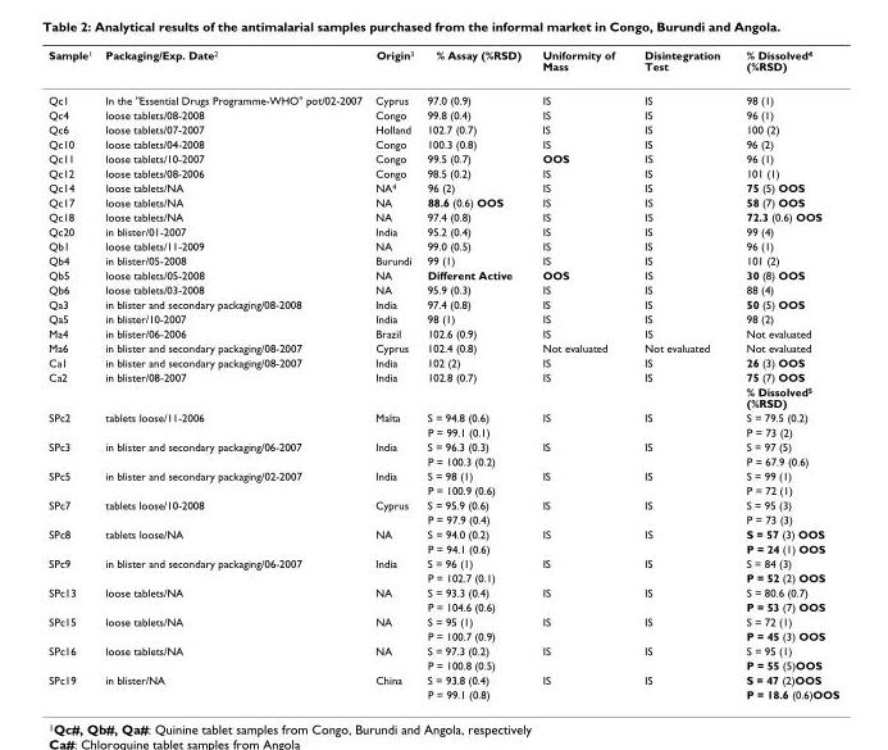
<table><thead><tr><td>Sample<sup>1</sup></td><td>Packaging/Exp. Date<sup>2</sup></td><td>Origin<sup>3</sup></td><td>% Assay (%RSD)</td><td>Uniformity of Mass</td><td>Disintegration Test</td><td>% Dissolved<sup>4</sup> (%RSD)</td></tr></thead><tbody><tr><td>Qc1</td><td>In the &quot;Essential Drugs Programme-WHO&quot; pot/02-2007</td><td>Cyprus</td><td>97.0 (0.9)</td><td>IS</td><td>IS</td><td>98 (1)</td></tr><tr><td>Qc4</td><td>loose tablets/08-2008</td><td>Congo</td><td>99.8 (0.4)</td><td>IS</td><td>IS</td><td>96 (1)</td></tr><tr><td>Qc6</td><td>loose tablets/07-2007</td><td>Holland</td><td>102.7 (0.7)</td><td>IS</td><td>IS</td><td>100 (2)</td></tr><tr><td>Qc10</td><td>loose tablets/04-2008</td><td>Congo</td><td>100.3 (0.8)</td><td>IS</td><td>IS</td><td>96 (2)</td></tr><tr><td>Qc11</td><td>loose tablets/10-2007</td><td>Congo</td><td>99.5 (0.7)</td><td>OOS</td><td>IS</td><td>96 (1)</td></tr><tr><td>Qc12</td><td>loose tablets/08-2006</td><td>Congo</td><td>98.5 (0.2)</td><td>IS</td><td>IS</td><td>101 (1)</td></tr><tr><td>Qc14</td><td>loose tablets/NA</td><td>NA<sup>4</sup></td><td>96 (2)</td><td>IS</td><td>IS</td><td>75 (5) OOS</td></tr><tr><td>Qc17</td><td>loose tablets/NA</td><td>NA</td><td>88.6 (0.6) OOS</td><td>IS</td><td>IS</td><td>58 (7) OOS</td></tr><tr><td>Qc18</td><td>loose tablets/NA</td><td>NA</td><td>97.4 (0.8)</td><td>IS</td><td>IS</td><td>72.3 (0.6) OOS</td></tr><tr><td>Qc20</td><td>in blister/01-2007</td><td>India</td><td>95.2 (0.4)</td><td>IS</td><td>IS</td><td>99 (4)</td></tr><tr><td>Qb1</td><td>loose tablets/11-2009</td><td>NA</td><td>99.0 (0.5)</td><td>IS</td><td>IS</td><td>96 (1)</td></tr><tr><td>Qb4</td><td>in blister/05-2008</td><td>Burundi</td><td>99 (1)</td><td>IS</td><td>IS</td><td>101 (2)</td></tr><tr><td>Qb5</td><td>loose tablets/05-2008</td><td>NA</td><td>Different Active</td><td>OOS</td><td>IS</td><td>30 (8) OOS</td></tr><tr><td>Qb6</td><td>loose tablets/03-2008</td><td>NA</td><td>95.9 (0.3)</td><td>IS</td><td>IS</td><td>88 (4)</td></tr><tr><td>Qa3</td><td>in blister and secondary packaging/08-2008</td><td>India</td><td>97.4 (0.8)</td><td>IS</td><td>IS</td><td>50 (5) OOS</td></tr><tr><td>Qa5</td><td>in blister/10-2007</td><td>India</td><td>98 (1)</td><td>IS</td><td>IS</td><td>98 (2)</td></tr><tr><td>Ma4</td><td>in blister/06-2006</td><td>Brazil</td><td>102.6 (0.9)</td><td>IS</td><td>IS</td><td>Not evaluated</td></tr><tr><td>Ma6</td><td>in blister and secondary packaging/08-2007</td><td>Cyprus</td><td>102.4 (0.8)</td><td>Not evaluated</td><td>Not evaluated</td><td>Not evaluated</td></tr><tr><td>Ca1</td><td>in blister and secondary packaging/08-2007</td><td>India</td><td>102 (2)</td><td>IS</td><td>IS</td><td>26 (3) OOS</td></tr><tr><td rowspan="2">Ca2</td><td>in blister/08-2007</td><td>India</td><td>102.8 (0.7)</td><td>IS</td><td>IS</td><td>75 (7) OOS</td></tr><tr><td></td><td></td><td></td><td></td><td></td><td>% Dissolved<sup>5</sup> (%RSD)</td></tr><tr><td rowspan="2">SPc2</td><td>tablets loose/11-2006</td><td>Malta</td><td>S = 94.8 (0.6)</td><td>IS</td><td>IS</td><td>S = 79.5 (0.2)</td></tr><tr><td></td><td></td><td>P = 99.1 (0.1)</td><td></td><td></td><td>P = 73 (2)</td></tr><tr><td rowspan="2">SPc3</td><td>in blister and secondary packaging/06-2007</td><td>India</td><td>S = 96.3 (0.3)</td><td>IS</td><td>IS</td><td>S = 97 (5)</td></tr><tr><td></td><td></td><td>P = 100.3 (0.2)</td><td></td><td></td><td>P = 67.9 (0.6)</td></tr><tr><td rowspan="2">SPc5</td><td>in blister and secondary packaging/02-2007</td><td>India</td><td>S = 98 (1)</td><td>IS</td><td>IS</td><td>S = 99 (1)</td></tr><tr><td></td><td></td><td>P = 100.9 (0.6)</td><td></td><td></td><td>P = 72 (1)</td></tr><tr><td rowspan="2">SPc7</td><td>tablets loose/10-2008</td><td>Cyprus</td><td>S = 95.9 (0.6)</td><td>IS</td><td>IS</td><td>S = 95 (3)</td></tr><tr><td></td><td></td><td>P = 97.9 (0.4)</td><td></td><td></td><td>P = 73 (3)</td></tr><tr><td rowspan="2">SPc8</td><td>tablets loose/NA</td><td>NA</td><td>S = 94.0 (0.2)</td><td>IS</td><td>IS</td><td>S = 57 (3) OOS</td></tr><tr><td></td><td></td><td>P = 94.1 (0.6)</td><td></td><td></td><td>P = 24 (1) OOS</td></tr><tr><td rowspan="2">SPc9</td><td>in blister and secondary packaging/06-2007</td><td>India</td><td>S = 96 (1)</td><td>IS</td><td>IS</td><td>S = 84 (3)</td></tr><tr><td></td><td></td><td>P = 102.7 (0.1)</td><td></td><td></td><td>P = 52 (2) OOS</td></tr><tr><td rowspan="2">SPc13</td><td>loose tablets/NA</td><td>NA</td><td>S = 93.3 (0.4)</td><td>IS</td><td>IS</td><td>S = 80.6 (0.7)</td></tr><tr><td></td><td></td><td>P = 104.6 (0.6)</td><td></td><td></td><td>P = 53 (7) OOS</td></tr><tr><td rowspan="2">SPc15</td><td>loose tablets/NA</td><td>NA</td><td>S = 95 (1)</td><td>IS</td><td>IS</td><td>S = 72 (1)</td></tr><tr><td></td><td></td><td>P = 100.7 (0.9)</td><td></td><td></td><td>P = 45 (3) OOS</td></tr><tr><td rowspan="2">SPc16</td><td>loose tablets/NA</td><td>NA</td><td>S = 97.3 (0.2)</td><td>IS</td><td>IS</td><td>S = 95 (1)</td></tr><tr><td></td><td></td><td>P = 100.8 (0.5)</td><td></td><td></td><td>P = 55 (5)OOS</td></tr><tr><td rowspan="2">SPc19</td><td>in blister/NA</td><td>China</td><td>S = 93.8 (0.4)</td><td>IS</td><td>IS</td><td>S = 47 (2)OOS</td></tr><tr><td></td><td></td><td>P = 99.1 (0.8)</td><td></td><td></td><td>P = 18.6 (0.6)OOS</td></tr></tbody></table>